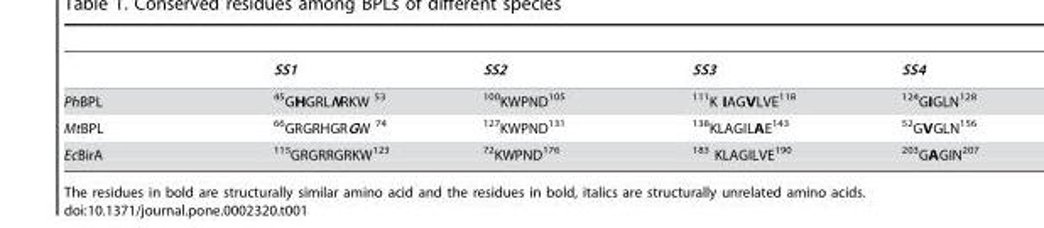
<table><thead><tr><td></td><td>SS1</td><td>SS2</td><td>SS3</td><td>SS4</td></tr></thead><tbody><tr><td>PhBPL</td><td><sup>45</sup>GHGRLNRKW <sup>53</sup></td><td><sup>100</sup>KWPND<sup>105</sup></td><td><sup>111</sup>K IAGVLVE<sup>118</sup></td><td><sup>124</sup>GIGLN<sup>128</sup></td></tr><tr><td>MtBPL</td><td><sup>66</sup>GRGRHGRGW <sup>74</sup></td><td><sup>127</sup>KWPND<sup>131</sup></td><td><sup>138</sup>KLAGILAE<sup>143</sup></td><td><sup>52</sup>GVGLN<sup>156</sup></td></tr><tr><td>EcBirA</td><td><sup>115</sup>GRGRRGRKW<sup>123</sup></td><td><sup>72</sup>KWPND<sup>176</sup></td><td><sup>183</sup> KLAGILVE<sup>190</sup></td><td><sup>203</sup>GAGIN<sup>207</sup></td></tr></tbody></table>